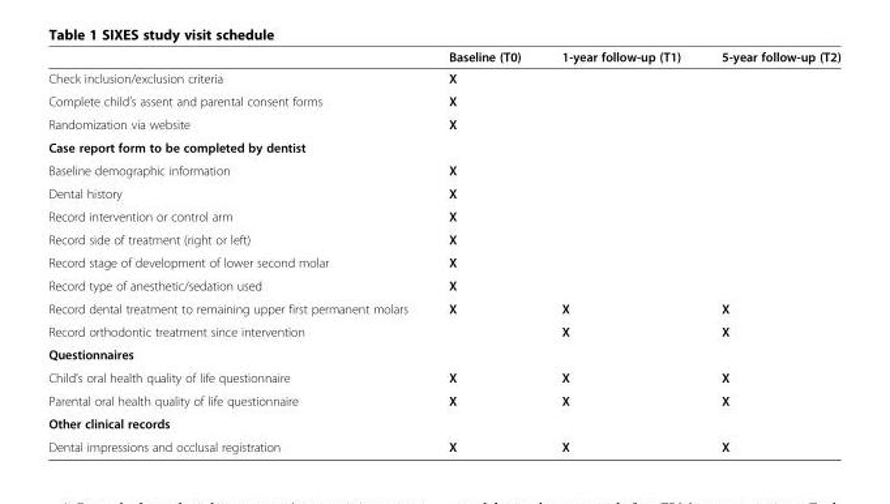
<table><thead><tr><td></td><td>Baseline (T0)</td><td>1-year follow-up (T1)</td><td>5-year follow-up (T2)</td></tr></thead><tbody><tr><td>Check inclusion/exclusion criteria</td><td>X</td><td></td><td></td></tr><tr><td>Complete child’s assent and parental consent forms</td><td>X</td><td></td><td></td></tr><tr><td>Randomization via website</td><td>X</td><td></td><td></td></tr><tr><td colspan="4">Case report form to be completed by dentist</td></tr><tr><td>Baseline demographic information</td><td>X</td><td></td><td></td></tr><tr><td>Dental history</td><td>X</td><td></td><td></td></tr><tr><td>Record intervention or control arm</td><td>X</td><td></td><td></td></tr><tr><td>Record side of treatment (right or left)</td><td>X</td><td></td><td></td></tr><tr><td>Record stage of development of lower second molar</td><td>X</td><td></td><td></td></tr><tr><td>Record type of anesthetic/sedation used</td><td>X</td><td></td><td></td></tr><tr><td>Record dental treatment to remaining upper first permanent molars</td><td>X</td><td>X</td><td>X</td></tr><tr><td>Record orthodontic treatment since intervention</td><td></td><td>X</td><td>X</td></tr><tr><td colspan="4">Questionnaires</td></tr><tr><td>Child’s oral health quality of life questionnaire</td><td>X</td><td>X</td><td>X</td></tr><tr><td>Parental oral health quality of life questionnaire</td><td>X</td><td>X</td><td>X</td></tr><tr><td colspan="4">Other clinical records</td></tr><tr><td>Dental impressions and occlusal registration</td><td>X</td><td>X</td><td>X</td></tr></tbody></table>